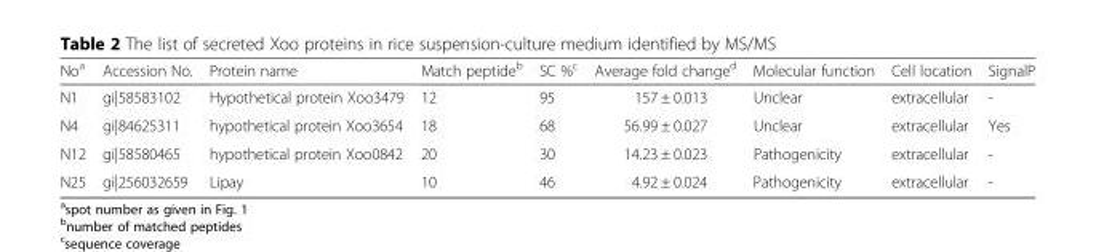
<table><thead><tr><td>No<sup>a</sup></td><td>Accession No.</td><td>Protein name</td><td>Match peptide<sup>b</sup></td><td>SC %<sup>c</sup></td><td>Average fold change<sup>d</sup></td><td>Molecular function</td><td>Cell location</td><td>SignalP</td></tr></thead><tbody><tr><td>N1</td><td>gi|58583102</td><td>Hypothetical protein Xoo3479</td><td>12</td><td>95</td><td>157 ± 0.013</td><td>Unclear</td><td>extracellular</td><td>-</td></tr><tr><td>N4</td><td>gi|84625311</td><td>hypothetical protein Xoo3654</td><td>18</td><td>68</td><td>56.99 ± 0.027</td><td>Unclear</td><td>extracellular</td><td>Yes</td></tr><tr><td>N12</td><td>gi|58580465</td><td>hypothetical protein Xoo0842</td><td>20</td><td>30</td><td>14.23 ± 0.023</td><td>Pathogenicity</td><td>extracellular</td><td>-</td></tr><tr><td>N25</td><td>gi|256032659</td><td>Lipay</td><td>10</td><td>46</td><td>4.92 ± 0.024</td><td>Pathogenicity</td><td>extracellular</td><td>-</td></tr></tbody></table>